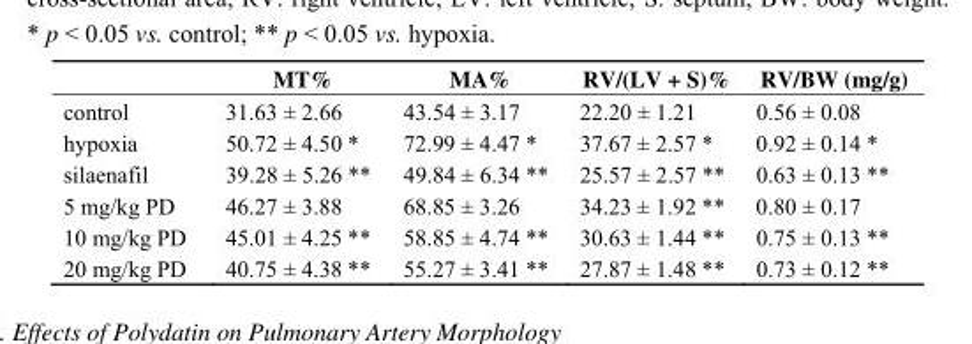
<table><thead><tr><td></td><td>MT%</td><td>MA%</td><td>RV/(LV + S)%</td><td>RV/BW (mg/g)</td></tr></thead><tbody><tr><td>control</td><td>31.63 ± 2.66</td><td>43.54 ± 3.17</td><td>22.20 ± 1.21</td><td>0.56 ± 0.08</td></tr><tr><td>hypoxia</td><td>50.72 ± 4.50 *</td><td>72.99 ± 4.47 *</td><td>37.67 ± 2.57 *</td><td>0.92 ± 0.14 *</td></tr><tr><td>silaenafil</td><td>39.28 ± 5.26 **</td><td>49.84 ± 6.34 **</td><td>25.57 ± 2.57 **</td><td>0.63 ± 0.13 **</td></tr><tr><td>5 mg/kg PD</td><td>46.27 ± 3.88</td><td>68.85 ± 3.26</td><td>34.23 ± 1.92 **</td><td>0.80 ± 0.17</td></tr><tr><td>10 mg/kg PD</td><td>45.01 ± 4.25 **</td><td>58.85 ± 4.74 **</td><td>30.63 ± 1.44 **</td><td>0.75 ± 0.13 **</td></tr><tr><td>20 mg/kg PD</td><td>40.75 ± 4.38 **</td><td>55.27 ± 3.41 **</td><td>27.87 ± 1.48 **</td><td>0.73 ± 0.12 **</td></tr></tbody></table>